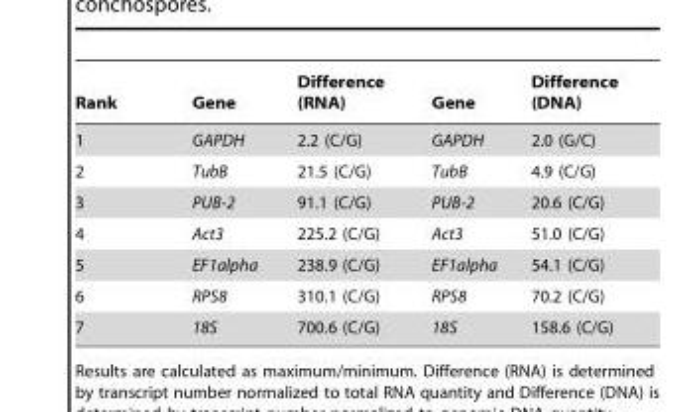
<table><thead><tr><td>Rank</td><td>Gene</td><td>Difference (RNA)</td><td>Gene</td><td>Difference (DNA)</td></tr></thead><tbody><tr><td>1</td><td>GAPDH</td><td>2.2 (C/G)</td><td>GAPDH</td><td>2.0 (G/C)</td></tr><tr><td>2</td><td>TubB</td><td>21.5 (C/G)</td><td>TubB</td><td>4.9 (C/G)</td></tr><tr><td>3</td><td>PUB-2</td><td>91.1 (C/G)</td><td>PUB-2</td><td>20.6 (C/G)</td></tr><tr><td>4</td><td>Act3</td><td>225.2 (C/G)</td><td>Act3</td><td>51.0 (C/G)</td></tr><tr><td>5</td><td>EF1alpha</td><td>238.9 (C/G)</td><td>EF1alpha</td><td>54.1 (C/G)</td></tr><tr><td>6</td><td>RPS8</td><td>310.1 (C/G)</td><td>RPS8</td><td>70.2 (C/G)</td></tr><tr><td>7</td><td>18S</td><td>700.6 (C/G)</td><td>18S</td><td>158.6 (C/G)</td></tr></tbody></table>